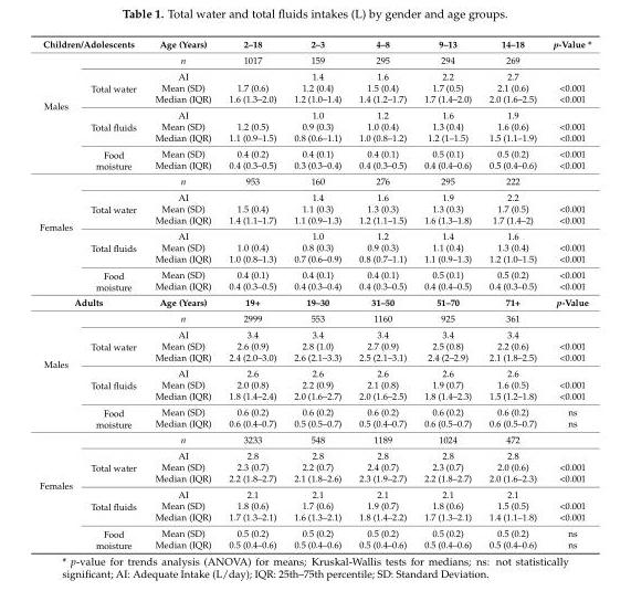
<table><tbody><tr><td colspan="2">Children/Adolescents</td><td>Age (Years)</td><td>2–18</td><td>2–3</td><td>4–8</td><td>9–13</td><td>14–18</td><td>p-Value *</td></tr><tr><td rowspan="9">Males</td><td></td><td>n</td><td>1017</td><td>159</td><td>295</td><td>294</td><td>269</td><td></td></tr><tr><td rowspan="3">Total water</td><td>AI</td><td></td><td>1.4</td><td>1.6</td><td>2.2</td><td>2.7</td><td></td></tr><tr><td>Mean (SD)</td><td>1.7 (0.6)</td><td>1.2 (0.4)</td><td>1.5 (0.4)</td><td>1.7 (0.5)</td><td>2.1 (0.6)</td><td>&lt;0.001</td></tr><tr><td>Median (IQR)</td><td>1.6 (1.3–2.0)</td><td>1.2 (1.0–1.4)</td><td>1.4 (1.2–1.7)</td><td>1.7 (1.4–2.0)</td><td>2.0 (1.6–2.5)</td><td>&lt;0.001</td></tr><tr><td rowspan="3">Total fluids</td><td>AI</td><td></td><td>1.0</td><td>1.2</td><td>1.6</td><td>1.9</td><td></td></tr><tr><td>Mean (SD)</td><td>1.2 (0.5)</td><td>0.9 (0.3)</td><td>1.0 (0.4)</td><td>1.3 (0.4)</td><td>1.6 (0.6)</td><td>&lt;0.001</td></tr><tr><td>Median (IQR)</td><td>1.1 (0.9–1.5)</td><td>0.8 (0.6–1.1)</td><td>1.0 (0.8–1.2)</td><td>1.2 (1–1.5)</td><td>1.5 (1.1–1.9)</td><td>&lt;0.001</td></tr><tr><td rowspan="2">Food moisture</td><td>Mean (SD)</td><td>0.4 (0.2)</td><td>0.4 (0.1)</td><td>0.4 (0.1)</td><td>0.5 (0.1)</td><td>0.5 (0.2)</td><td>&lt;0.001</td></tr><tr><td>Median (IQR)</td><td>0.4 (0.3–0.5)</td><td>0.3 (0.3–0.4)</td><td>0.4 (0.3–0.5)</td><td>0.4 (0.4–0.6)</td><td>0.5 (0.4–0.6)</td><td>&lt;0.001</td></tr><tr><td rowspan="9">Females</td><td></td><td>n</td><td>953</td><td>160</td><td>276</td><td>295</td><td>222</td><td></td></tr><tr><td rowspan="3">Total water</td><td>AI</td><td></td><td>1.4</td><td>1.6</td><td>1.9</td><td>2.2</td><td></td></tr><tr><td>Mean (SD)</td><td>1.5 (0.4)</td><td>1.1 (0.3)</td><td>1.3 (0.3)</td><td>1.3 (0.3)</td><td>1.7 (0.5)</td><td>&lt;0.001</td></tr><tr><td>Median (IQR)</td><td>1.4 (1.1–1.7)</td><td>1.1 (0.9–1.3)</td><td>1.2 (1.1–1.5)</td><td>1.6 (1.3–1.8)</td><td>1.7 (1.4–2)</td><td>&lt;0.001</td></tr><tr><td rowspan="3">Total fluids</td><td>AI</td><td></td><td>1.0</td><td>1.2</td><td>1.4</td><td>1.6</td><td></td></tr><tr><td>Mean (SD)</td><td>1.0 (0.4)</td><td>0.8 (0.3)</td><td>0.9 (0.3)</td><td>1.1 (0.4)</td><td>1.3 (0.4)</td><td>&lt;0.001</td></tr><tr><td>Median (IQR)</td><td>1.0 (0.8–1.3)</td><td>0.7 (0.6–0.9)</td><td>0.8 (0.7–1.1)</td><td>1.1 (0.9–1.3)</td><td>1.2 (1.0–1.5)</td><td>&lt;0.001</td></tr><tr><td rowspan="2">Food moisture</td><td>Mean (SD)</td><td>0.4 (0.1)</td><td>0.4 (0.1)</td><td>0.4 (0.1)</td><td>0.5 (0.1)</td><td>0.5 (0.2)</td><td>&lt;0.001</td></tr><tr><td>Median (IQR)</td><td>0.4 (0.3–0.5)</td><td>0.4 (0.3–0.4)</td><td>0.4 (0.3–0.5)</td><td>0.4 (0.4–0.5)</td><td>0.4 (0.3–0.5)</td><td>&lt;0.001</td></tr><tr><td colspan="2">Adults</td><td>Age (Years)</td><td>19+</td><td>19–30</td><td>31–50</td><td>51–70</td><td>71+</td><td>p-Value</td></tr><tr><td rowspan="9">Males</td><td></td><td>n</td><td>2999</td><td>553</td><td>1160</td><td>925</td><td>361</td><td></td></tr><tr><td rowspan="3">Total water</td><td>AI</td><td>3.4</td><td>3.4</td><td>3.4</td><td>3.4</td><td>3.4</td><td></td></tr><tr><td>Mean (SD)</td><td>2.6 (0.9)</td><td>2.8 (1.0)</td><td>2.7 (0.9)</td><td>2.5 (0.8)</td><td>2.2 (0.6)</td><td>&lt;0.001</td></tr><tr><td>Median (IQR)</td><td>2.4 (2.0–3.0)</td><td>2.6 (2.1–3.3)</td><td>2.5 (2.1–3.1)</td><td>2.4 (2–2.9)</td><td>2.1 (1.8–2.5)</td><td>&lt;0.001</td></tr><tr><td rowspan="3">Total fluids</td><td>AI</td><td>2.6</td><td>2.6</td><td>2.6</td><td>2.6</td><td>2.6</td><td></td></tr><tr><td>Mean (SD)</td><td>2.0 (0.8)</td><td>2.2 (0.9)</td><td>2.1 (0.8)</td><td>1.9 (0.7)</td><td>1.6 (0.5)</td><td>&lt;0.001</td></tr><tr><td>Median (IQR)</td><td>1.8 (1.4–2.4)</td><td>2.0 (1.6–2.7)</td><td>2.0 (1.6–2.5)</td><td>1.8 (1.4–2.3)</td><td>1.5 (1.2–1.8)</td><td>&lt;0.001</td></tr><tr><td rowspan="2">Food moisture</td><td>Mean (SD)</td><td>0.6 (0.2)</td><td>0.6 (0.2)</td><td>0.6 (0.2)</td><td>0.6 (0.2)</td><td>0.6 (0.2)</td><td>ns</td></tr><tr><td>Median (IQR)</td><td>0.6 (0.4–0.7)</td><td>0.5 (0.5–0.7)</td><td>0.5 (0.4–0.7)</td><td>0.6 (0.5–0.7)</td><td>0.6 (0.5–0.7)</td><td>ns</td></tr><tr><td rowspan="9">Females</td><td></td><td>n</td><td>3233</td><td>548</td><td>1189</td><td>1024</td><td>472</td><td></td></tr><tr><td rowspan="3">Total water</td><td>AI</td><td>2.8</td><td>2.8</td><td>2.8</td><td>2.8</td><td>2.8</td><td></td></tr><tr><td>Mean (SD)</td><td>2.3 (0.7)</td><td>2.2 (0.7)</td><td>2.4 (0.7)</td><td>2.3 (0.7)</td><td>2.0 (0.6)</td><td>&lt;0.001</td></tr><tr><td>Median (IQR)</td><td>2.2 (1.8–2.7)</td><td>2.1 (1.8–2.6)</td><td>2.3 (1.9–2.7)</td><td>2.2 (1.8–2.7)</td><td>2.0 (1.6–2.3)</td><td>&lt;0.001</td></tr><tr><td rowspan="3">Total fluids</td><td>AI</td><td>2.1</td><td>2.1</td><td>2.1</td><td>2.1</td><td>2.1</td><td></td></tr><tr><td>Mean (SD)</td><td>1.8 (0.6)</td><td>1.7 (0.6)</td><td>1.9 (0.7)</td><td>1.8 (0.6)</td><td>1.5 (0.5)</td><td>&lt;0.001</td></tr><tr><td>Median (IQR)</td><td>1.7 (1.3–2.1)</td><td>1.6 (1.3–2.1)</td><td>1.8 (1.4–2.2)</td><td>1.7 (1.3–2.1)</td><td>1.4 (1.1–1.8)</td><td>&lt;0.001</td></tr><tr><td rowspan="2">Food moisture</td><td>Mean (SD)</td><td>0.5 (0.2)</td><td>0.5 (0.2)</td><td>0.5 (0.2)</td><td>0.5 (0.2)</td><td>0.5 (0.2)</td><td>ns</td></tr><tr><td>Median (IQR)</td><td>0.5 (0.4–0.6)</td><td>0.5 (0.4–0.6)</td><td>0.5 (0.4–0.6)</td><td>0.5 (0.4–0.6)</td><td>0.5 (0.4–0.6)</td><td>ns</td></tr></tbody></table>